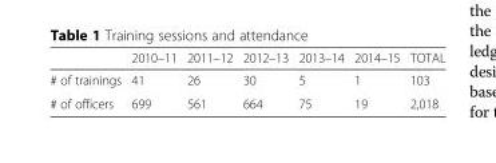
<table><thead><tr><td></td><td>2010–11</td><td>2011–12</td><td>2012–13</td><td>2013–14</td><td>2014–15</td><td>TOTAL</td></tr></thead><tbody><tr><td># of trainings</td><td>41</td><td>26</td><td>30</td><td>5</td><td>1</td><td>103</td></tr><tr><td># of officers</td><td>699</td><td>561</td><td>664</td><td>75</td><td>19</td><td>2,018</td></tr></tbody></table>